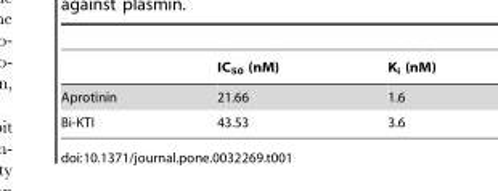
<table><thead><tr><td></td><td>IC<sub>50</sub> (nM)</td><td>K<sub>i</sub> (nM)</td></tr></thead><tbody><tr><td>Aprotinin</td><td>21.66</td><td>1.6</td></tr><tr><td>Bi-KTI</td><td>43.53</td><td>3.6</td></tr></tbody></table>